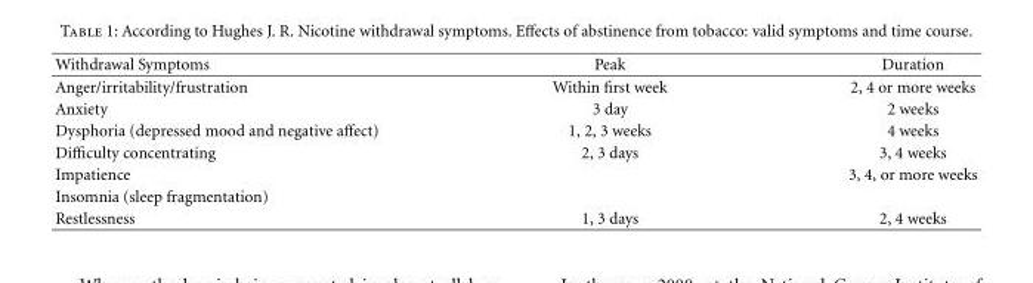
<table><thead><tr><td>Withdrawal Symptoms</td><td>Peak</td><td>Duration</td></tr></thead><tbody><tr><td>Anger/irritability/frustration</td><td>Within first week</td><td>2, 4 or more weeks</td></tr><tr><td>Anxiety</td><td>3 day</td><td>2 weeks</td></tr><tr><td>Dysphoria (depressed mood and negative affect)</td><td>1, 2, 3 weeks</td><td>4 weeks</td></tr><tr><td>Difficulty concentrating</td><td>2, 3 days</td><td>3, 4 weeks</td></tr><tr><td>Impatience</td><td></td><td>3, 4, or more weeks</td></tr><tr><td colspan="3">Insomnia (sleep fragmentation)</td></tr><tr><td>Restlessness</td><td>1, 3 days</td><td>2, 4 weeks</td></tr></tbody></table>